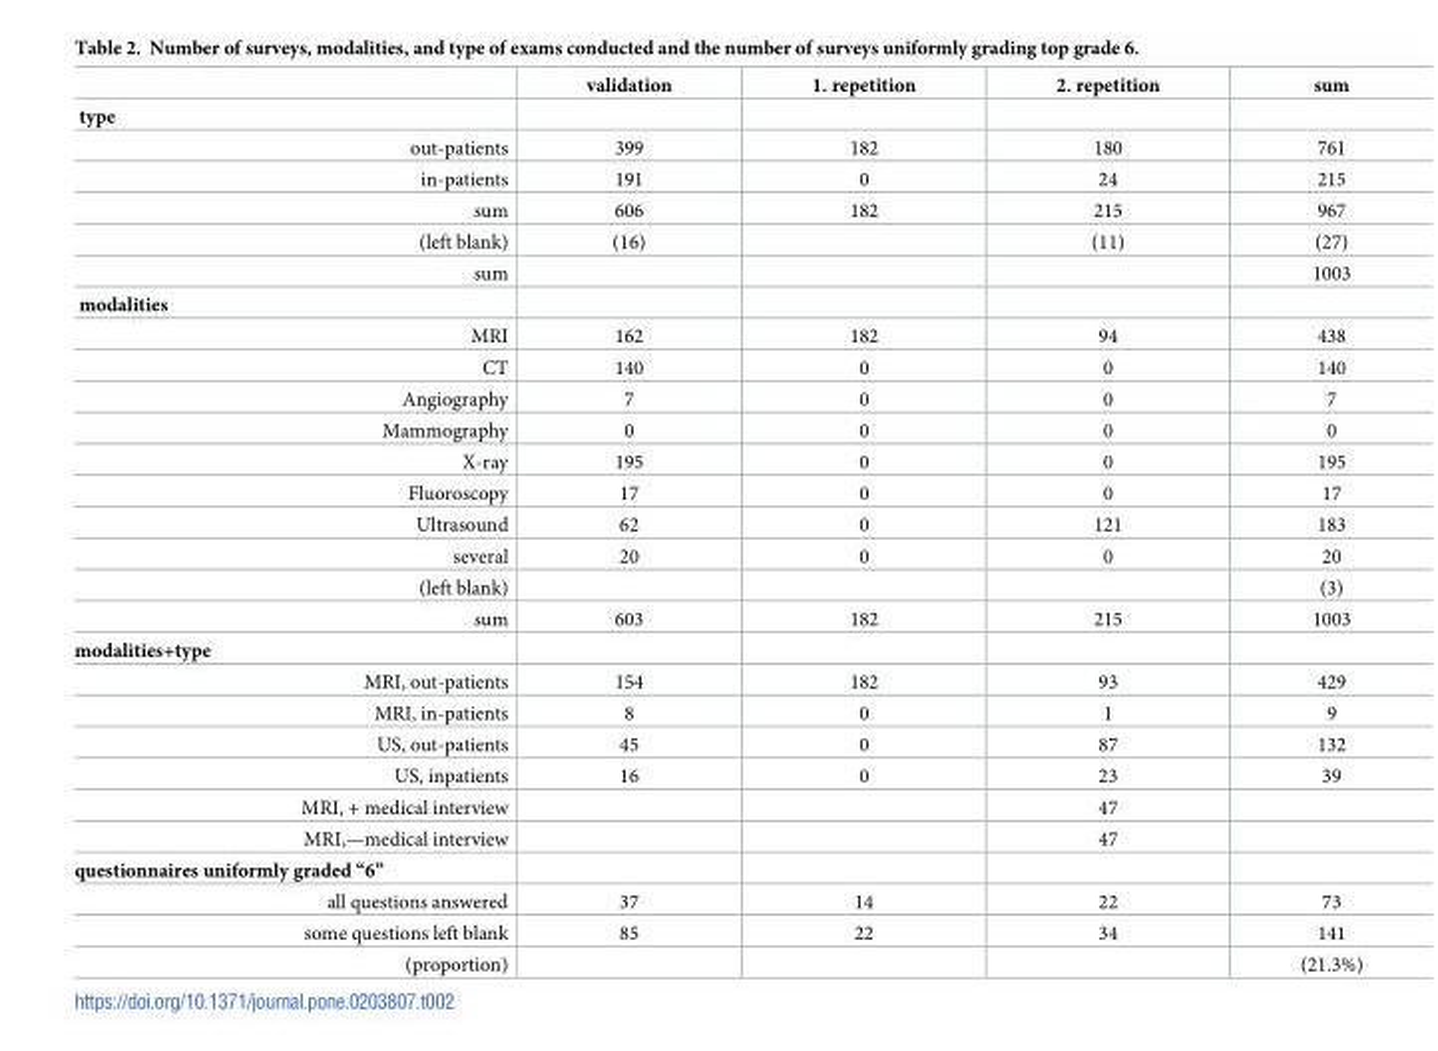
<table><thead><tr><td></td><td>validation</td><td>1. repetition</td><td>2. repetition</td><td>sum</td></tr></thead><tbody><tr><td colspan="5">type</td></tr><tr><td>out-patients</td><td>399</td><td>182</td><td>180</td><td>761</td></tr><tr><td>in-patients</td><td>191</td><td>0</td><td>24</td><td>215</td></tr><tr><td>sum</td><td>606</td><td>182</td><td>215</td><td>967</td></tr><tr><td>(left blank)</td><td>(16)</td><td></td><td>(11)</td><td>(27)</td></tr><tr><td>sum</td><td></td><td></td><td></td><td>1003</td></tr><tr><td colspan="5">modalities</td></tr><tr><td>MRI</td><td>162</td><td>182</td><td>94</td><td>438</td></tr><tr><td>CT</td><td>140</td><td>0</td><td>0</td><td>140</td></tr><tr><td>Angiography</td><td>7</td><td>0</td><td>0</td><td>7</td></tr><tr><td>Mammography</td><td>0</td><td>0</td><td>0</td><td>0</td></tr><tr><td>X-ray</td><td>195</td><td>0</td><td>0</td><td>195</td></tr><tr><td>Fluoroscopy</td><td>17</td><td>0</td><td>0</td><td>17</td></tr><tr><td>Ultrasound</td><td>62</td><td>0</td><td>121</td><td>183</td></tr><tr><td>several</td><td>20</td><td>0</td><td>0</td><td>20</td></tr><tr><td>(left blank)</td><td></td><td></td><td></td><td>(3)</td></tr><tr><td>sum</td><td>603</td><td>182</td><td>215</td><td>1003</td></tr><tr><td colspan="5">modalities+type</td></tr><tr><td>MRI, out-patients</td><td>154</td><td>182</td><td>93</td><td>429</td></tr><tr><td>MRI, in-patients</td><td>8</td><td>0</td><td>1</td><td>9</td></tr><tr><td>US, out-patients</td><td>45</td><td>0</td><td>87</td><td>132</td></tr><tr><td>US, inpatients</td><td>16</td><td>0</td><td>23</td><td>39</td></tr><tr><td>MRI, + medical interview</td><td></td><td></td><td>47</td><td></td></tr><tr><td>MRI,—medical interview</td><td></td><td></td><td>47</td><td></td></tr><tr><td colspan="5">questionnaires uniformly graded “6”</td></tr><tr><td>all questions answered</td><td>37</td><td>14</td><td>22</td><td>73</td></tr><tr><td>some questions left blank</td><td>85</td><td>22</td><td>34</td><td>141</td></tr><tr><td>(proportion)</td><td></td><td></td><td></td><td>(21.3%)</td></tr></tbody></table>